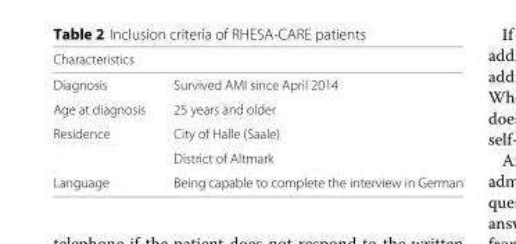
<table><thead><tr><td>Characteristics</td><td></td></tr></thead><tbody><tr><td>Diagnosis</td><td>Survived AMI since April 2014</td></tr><tr><td>Age at diagnosis</td><td>25 years and older</td></tr><tr><td rowspan="2">Residence</td><td>City of Halle (Saale)</td></tr><tr><td>District of Altmark</td></tr><tr><td>Language</td><td>Being capable to complete the interview in German</td></tr></tbody></table>